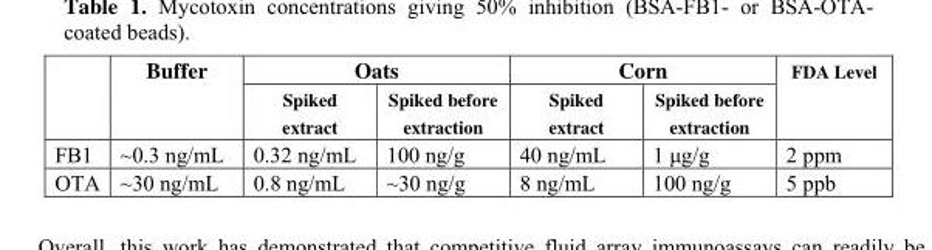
<table><thead><tr><td rowspan="2"></td><td rowspan="2">Buffer</td><td colspan="2">Oats</td><td colspan="2">Corn</td><td rowspan="2">FDA Level</td></tr><tr><td>Spiked extract</td><td>Spiked before extraction</td><td>Spiked extract</td><td>Spiked before extraction</td></tr></thead><tbody><tr><td>FB1</td><td>~0.3 ng/mL</td><td>0.32 ng/mL</td><td>100 ng/g</td><td>40 ng/mL</td><td>1 μg/g</td><td>2 ppm</td></tr><tr><td>OTA</td><td>~30 ng/mL</td><td>0.8 ng/mL</td><td>~30 ng/g</td><td>8 ng/mL</td><td>100 ng/g</td><td>5 ppb</td></tr></tbody></table>